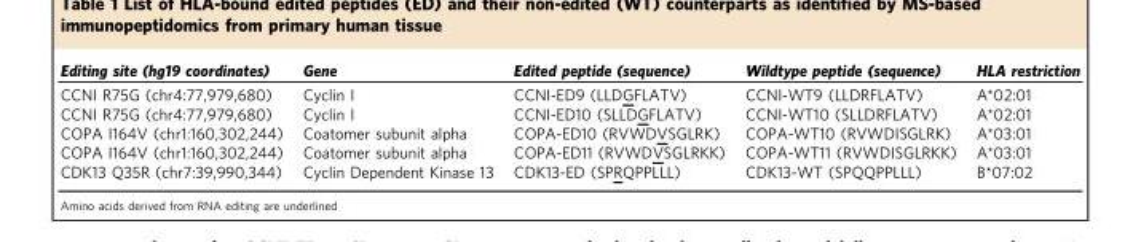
<table><thead><tr><td>Editing site (hg19 coordinates)</td><td>Gene</td><td>Edited peptide (sequence)</td><td>Wildtype peptide (sequence)</td><td>HLA restriction</td></tr></thead><tbody><tr><td>CCNI R75G (chr4:77,979,680)</td><td>Cyclin I</td><td>CCNI-ED9 (LLDGFLATV)</td><td>CCNI-WT9 (LLDRFLATV)</td><td>A*02:01</td></tr><tr><td>CCNI R75G (chr4:77,979,680)</td><td>Cyclin I</td><td>CCNI-ED10 (SLLDGFLATV)</td><td>CCNI-WT10 (SLLDRFLATV)</td><td>A*02:01</td></tr><tr><td>COPA I164V (chr1:160,302,244)</td><td>Coatomer subunit alpha</td><td>COPA-ED10 (RVWDVSGLRK)</td><td>COPA-WT10 (RVWDISGLRK)</td><td>A*03:01</td></tr><tr><td>COPA I164V (chr1:160,302,244)</td><td>Coatomer subunit alpha</td><td>COPA-ED11 (RVWDVSGLRKK)</td><td>COPA-WT11 (RVWDISGLRKK)</td><td>A*03:01</td></tr><tr><td>CDK13 Q35R (chr7:39,990,344)</td><td>Cyclin Dependent Kinase 13</td><td>CDK13-ED (SPRQPPLLL)</td><td>CDK13-WT (SPQQPPLLL)</td><td>B*07:02</td></tr></tbody></table>